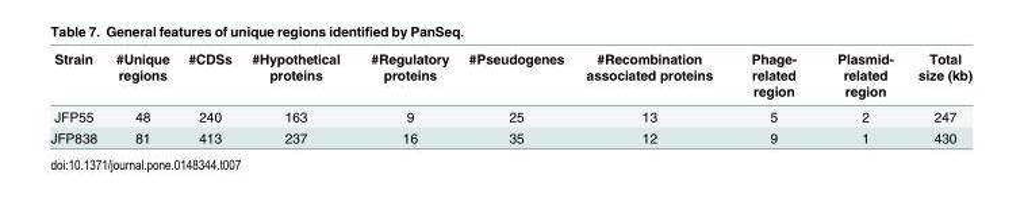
<table><thead><tr><td>Strain</td><td>#Unique regions</td><td>#CDSs</td><td>#Hypothetical proteins</td><td>#Regulatory proteins</td><td>#Pseudogenes</td><td>#Recombination associated proteins</td><td>Phage- related region</td><td>Plasmid- related region</td><td>Total size (kb)</td></tr></thead><tbody><tr><td>JFP55</td><td>48</td><td>240</td><td>163</td><td>9</td><td>25</td><td>13</td><td>5</td><td>2</td><td>247</td></tr><tr><td>JFP838</td><td>81</td><td>413</td><td>237</td><td>16</td><td>35</td><td>12</td><td>9</td><td>1</td><td>430</td></tr></tbody></table>